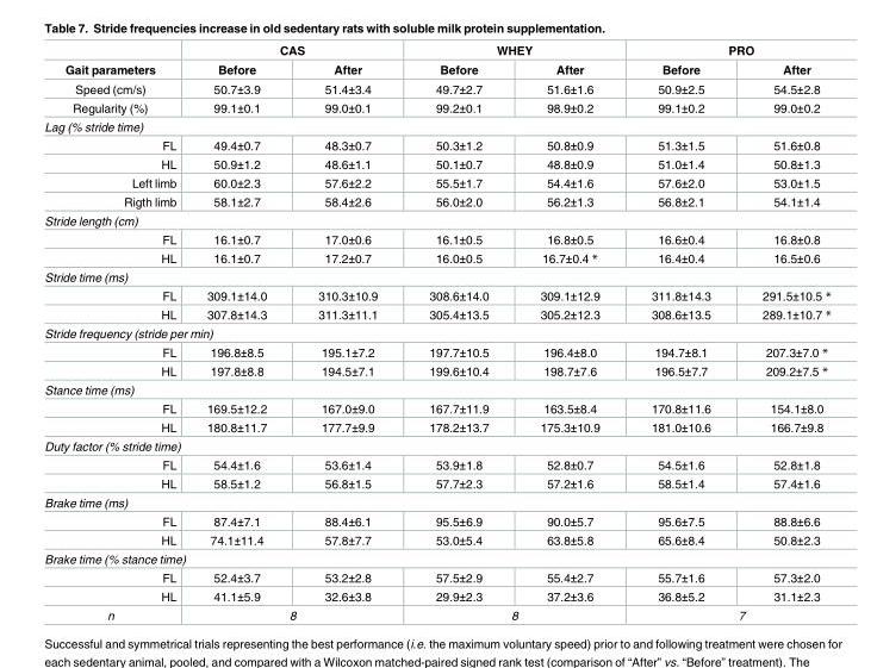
<table><thead><tr><td rowspan="2">Gait parameters</td><td colspan="2">CAS</td><td colspan="2">WHEY</td><td colspan="2">PRO</td></tr><tr><td>Before</td><td>After</td><td>Before</td><td>After</td><td>Before</td><td>After</td></tr></thead><tbody><tr><td>Speed (cm/s)</td><td>50.7±3.9</td><td>51.4±3.4</td><td>49.7±2.7</td><td>51.6±1.6</td><td>50.9±2.5</td><td>54.5±2.8</td></tr><tr><td>Regularity (%)</td><td>99.1±0.1</td><td>99.0±0.1</td><td>99.2±0.1</td><td>98.9±0.2</td><td>99.1±0.2</td><td>99.0±0.2</td></tr><tr><td colspan="7">Lag (% stride time)</td></tr><tr><td>FL</td><td>49.4±0.7</td><td>48.3±0.7</td><td>50.3±1.2</td><td>50.8±0.9</td><td>51.3±1.5</td><td>51.6±0.8</td></tr><tr><td>HL</td><td>50.9±1.2</td><td>48.6±1.1</td><td>50.1±0.7</td><td>48.8±0.9</td><td>51.0±1.4</td><td>50.8±1.3</td></tr><tr><td>Left limb</td><td>60.0±2.3</td><td>57.6±2.2</td><td>55.5±1.7</td><td>54.4±1.6</td><td>57.6±2.0</td><td>53.0±1.5</td></tr><tr><td>Rigth limb</td><td>58.1±2.7</td><td>58.4±2.6</td><td>56.0±2.0</td><td>56.2±1.3</td><td>56.8±2.1</td><td>54.1±1.4</td></tr><tr><td colspan="7">Stride length (cm)</td></tr><tr><td>FL</td><td>16.1±0.7</td><td>17.0±0.6</td><td>16.1±0.5</td><td>16.8±0.5</td><td>16.6±0.4</td><td>16.8±0.8</td></tr><tr><td>HL</td><td>16.1±0.7</td><td>17.2±0.7</td><td>16.0±0.5</td><td>16.7±0.4 *</td><td>16.4±0.4</td><td>16.5±0.6</td></tr><tr><td colspan="7">Stride time (ms)</td></tr><tr><td>FL</td><td>309.1±14.0</td><td>310.3±10.9</td><td>308.6±14.0</td><td>309.1±12.9</td><td>311.8±14.3</td><td>291.5±10.5 *</td></tr><tr><td>HL</td><td>307.8±14.3</td><td>311.3±11.1</td><td>305.4±13.5</td><td>305.2±12.3</td><td>308.6±13.5</td><td>289.1±10.7 *</td></tr><tr><td colspan="7">Stride frequency (stride per min)</td></tr><tr><td>FL</td><td>196.8±8.5</td><td>195.1±7.2</td><td>197.7±10.5</td><td>196.4±8.0</td><td>194.7±8.1</td><td>207.3±7.0 *</td></tr><tr><td>HL</td><td>197.8±8.8</td><td>194.5±7.1</td><td>199.6±10.4</td><td>198.7±7.6</td><td>196.5±7.7</td><td>209.2±7.5 *</td></tr><tr><td colspan="7">Stance time (ms)</td></tr><tr><td>FL</td><td>169.5±12.2</td><td>167.0±9.0</td><td>167.7±11.9</td><td>163.5±8.4</td><td>170.8±11.6</td><td>154.1±8.0</td></tr><tr><td>HL</td><td>180.8±11.7</td><td>177.7±9.9</td><td>178.2±13.7</td><td>175.3±10.9</td><td>181.0±10.6</td><td>166.7±9.8</td></tr><tr><td colspan="7">Duty factor (% stride time)</td></tr><tr><td>FL</td><td>54.4±1.6</td><td>53.6±1.4</td><td>53.9±1.8</td><td>52.8±0.7</td><td>54.5±1.6</td><td>52.8±1.8</td></tr><tr><td>HL</td><td>58.5±1.2</td><td>56.8±1.5</td><td>57.7±2.3</td><td>57.2±1.6</td><td>58.5±1.4</td><td>57.4±1.6</td></tr><tr><td colspan="7">Brake time (ms)</td></tr><tr><td>FL</td><td>87.4±7.1</td><td>88.4±6.1</td><td>95.5±6.9</td><td>90.0±5.7</td><td>95.6±7.5</td><td>88.8±6.6</td></tr><tr><td>HL</td><td>74.1±11.4</td><td>57.8±7.7</td><td>53.0±5.4</td><td>63.8±5.8</td><td>65.6±8.4</td><td>50.8±2.3</td></tr><tr><td colspan="7">Brake time (% stance time)</td></tr><tr><td>FL</td><td>52.4±3.7</td><td>53.2±2.8</td><td>57.5±2.9</td><td>55.4±2.7</td><td>55.7±1.6</td><td>57.3±2.0</td></tr><tr><td>HL</td><td>41.1±5.9</td><td>32.6±3.8</td><td>29.9±2.3</td><td>37.2±3.6</td><td>36.8±5.2</td><td>31.1±2.3</td></tr><tr><td>n</td><td colspan="2">8</td><td colspan="2">8</td><td colspan="2">7</td></tr></tbody></table>